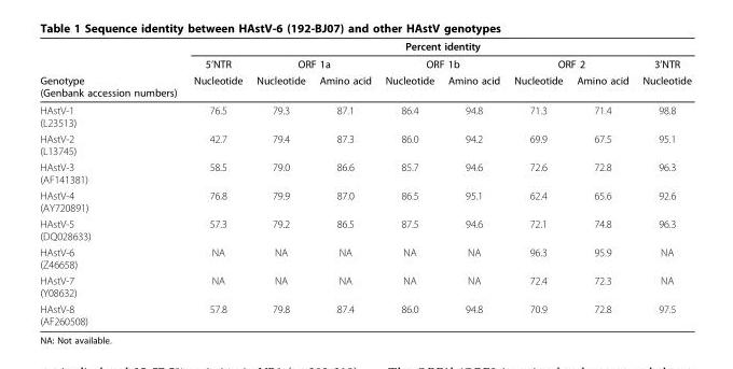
<table><thead><tr><td rowspan="3">Genotype (Genbank accession numbers)</td><td colspan="8">Percent identity</td></tr><tr><td rowspan="2">5’NTR Nucleotide</td><td colspan="2">ORF 1a</td><td colspan="2">ORF 1b</td><td colspan="2">ORF 2</td><td rowspan="2">3’NTR Nucleotide</td></tr><tr><td>Nucleotide</td><td>Amino acid</td><td>Nucleotide</td><td>Amino acid</td><td>Nucleotide</td><td>Amino acid</td></tr></thead><tbody><tr><td>HAstV-1 (L23513)</td><td>76.5</td><td>79.3</td><td>87.1</td><td>86.4</td><td>94.8</td><td>71.3</td><td>71.4</td><td>98.8</td></tr><tr><td>HAstV-2 (L13745)</td><td>42.7</td><td>79.4</td><td>87.3</td><td>86.0</td><td>94.2</td><td>69.9</td><td>67.5</td><td>95.1</td></tr><tr><td>HAstV-3 (AF141381)</td><td>58.5</td><td>79.0</td><td>86.6</td><td>85.7</td><td>94.6</td><td>72.6</td><td>72.8</td><td>96.3</td></tr><tr><td>HAstV-4 (AY720891)</td><td>76.8</td><td>79.9</td><td>87.0</td><td>86.5</td><td>95.1</td><td>62.4</td><td>65.6</td><td>92.6</td></tr><tr><td>HAstV-5 (DQ028633)</td><td>57.3</td><td>79.2</td><td>86.5</td><td>87.5</td><td>94.6</td><td>72.1</td><td>74.8</td><td>96.3</td></tr><tr><td>HAstV-6 (Z46658)</td><td>NA</td><td>NA</td><td>NA</td><td>NA</td><td>NA</td><td>96.3</td><td>95.9</td><td>NA</td></tr><tr><td>HAstV-7 (Y08632)</td><td>NA</td><td>NA</td><td>NA</td><td>NA</td><td>NA</td><td>72.4</td><td>72.3</td><td>NA</td></tr><tr><td>HAstV-8 (AF260508)</td><td>57.8</td><td>79.8</td><td>87.4</td><td>86.0</td><td>94.8</td><td>70.9</td><td>72.8</td><td>97.5</td></tr></tbody></table>